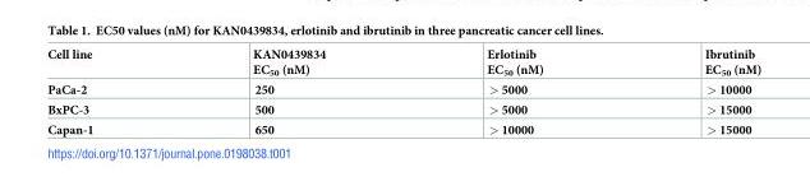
<table><thead><tr><td>Cell line</td><td>KAN0439834 EC<sub>50</sub> (nM)</td><td>Erlotinib EC<sub>50</sub> (nM)</td><td>Ibrutinib EC<sub>50</sub> (nM)</td></tr></thead><tbody><tr><td>PaCa-2</td><td>250</td><td>&gt; 5000</td><td>&gt; 10000</td></tr><tr><td>BxPC-3</td><td>500</td><td>&gt; 5000</td><td>&gt; 15000</td></tr><tr><td>Capan-1</td><td>650</td><td>&gt; 10000</td><td>&gt; 15000</td></tr></tbody></table>